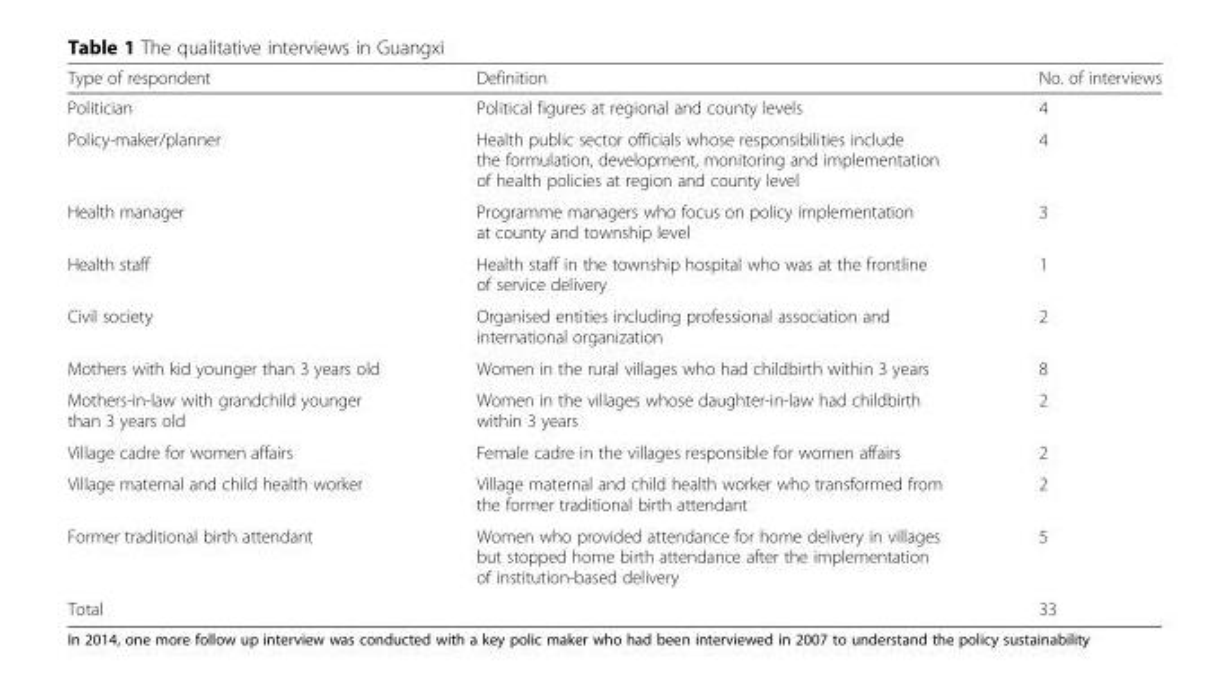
<table><thead><tr><td>Type of respondent</td><td>Definition</td><td>No. of interviews</td></tr></thead><tbody><tr><td>Politician</td><td>Political figures at regional and county levels</td><td>4</td></tr><tr><td>Policy-maker/planner</td><td>Health public sector officials whose responsibilities include the formulation, development, monitoring and implementation of health policies at region and county level</td><td>4</td></tr><tr><td>Health manager</td><td>Programme managers who focus on policy implementation at county and township level</td><td>3</td></tr><tr><td>Health staff</td><td>Health staff in the township hospital who was at the frontline of service delivery</td><td>1</td></tr><tr><td>Civil society</td><td>Organised entities including professional association and international organization</td><td>2</td></tr><tr><td>Mothers with kid younger than 3 years old</td><td>Women in the rural villages who had childbirth within 3 years</td><td>8</td></tr><tr><td>Mothers-in-law with grandchild younger than 3 years old</td><td>Women in the villages whose daughter-in-law had childbirth within 3 years</td><td>2</td></tr><tr><td>Village cadre for women affairs</td><td>Female cadre in the villages responsible for women affairs</td><td>2</td></tr><tr><td>Village maternal and child health worker</td><td>Village maternal and child health worker who transformed from the former traditional birth attendant</td><td>2</td></tr><tr><td>Former traditional birth attendant</td><td>Women who provided attendance for home delivery in villages but stopped home birth attendance after the implementation of institution-based delivery</td><td>5</td></tr><tr><td>Total</td><td></td><td>33</td></tr></tbody></table>